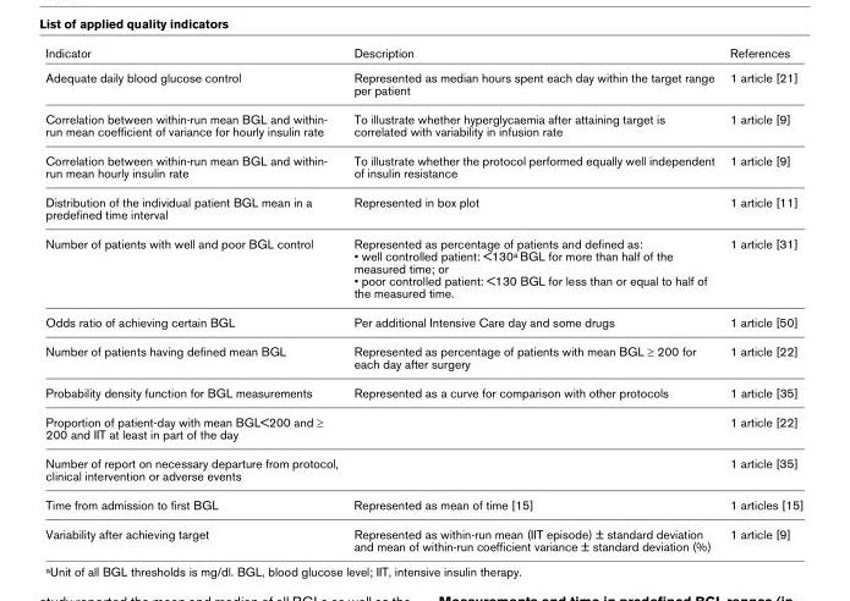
<table><thead><tr><td>Indicator</td><td>Description</td><td>References</td></tr></thead><tbody><tr><td>Adequate daily blood glucose control</td><td>Represented as median hours spent each day within the target range per patient</td><td>1 article [21]</td></tr><tr><td>Correlation between within-run mean BGL and within- run mean coefficient of variance for hourly insulin rate</td><td>To illustrate whether hyperglycaemia after attaining target is correlated with variability in infusion rate</td><td>1 article [9]</td></tr><tr><td>Correlation between within-run mean BGL and within- run mean hourly insulin rate</td><td>To illustrate whether the protocol performed equally well independent of insulin resistance</td><td>1 article [9]</td></tr><tr><td>Distribution of the individual patient BGL mean in a predefined time interval</td><td>Represented in box plot</td><td>1 article [11]</td></tr><tr><td>Number of patients with well and poor BGL control</td><td>Represented as percentage of patients and defined as: • well controlled patient: &lt;130<sup>a</sup> BGL for more than half of the measured time; or • poor controlled patient: &lt;130 BGL for less than or equal to half of the measured time.</td><td>1 article [31]</td></tr><tr><td>Odds ratio of achieving certain BGL</td><td>Per additional Intensive Care day and some drugs</td><td>1 article [50]</td></tr><tr><td>Number of patients having defined mean BGL</td><td>Represented as percentage of patients with mean BGL ≥ 200 for each day after surgery</td><td>1 article [22]</td></tr><tr><td>Probability density function for BGL measurements</td><td>Represented as a curve for comparison with other protocols</td><td>1 article [35]</td></tr><tr><td>Proportion of patient-day with mean BGL&lt;200 and ≥ 200 and IIT at least in part of the day</td><td></td><td>1 article [22]</td></tr><tr><td>Number of report on necessary departure from protocol, clinical intervention or adverse events</td><td></td><td>1 article [35]</td></tr><tr><td>Time from admission to first BGL</td><td>Represented as mean of time [15]</td><td>1 articles [15]</td></tr><tr><td>Variability after achieving target</td><td>Represented as within-run mean (IIT episode) ± standard deviation and mean of within-run coefficient variance ± standard deviation (%)</td><td>1 article [9]</td></tr></tbody></table>